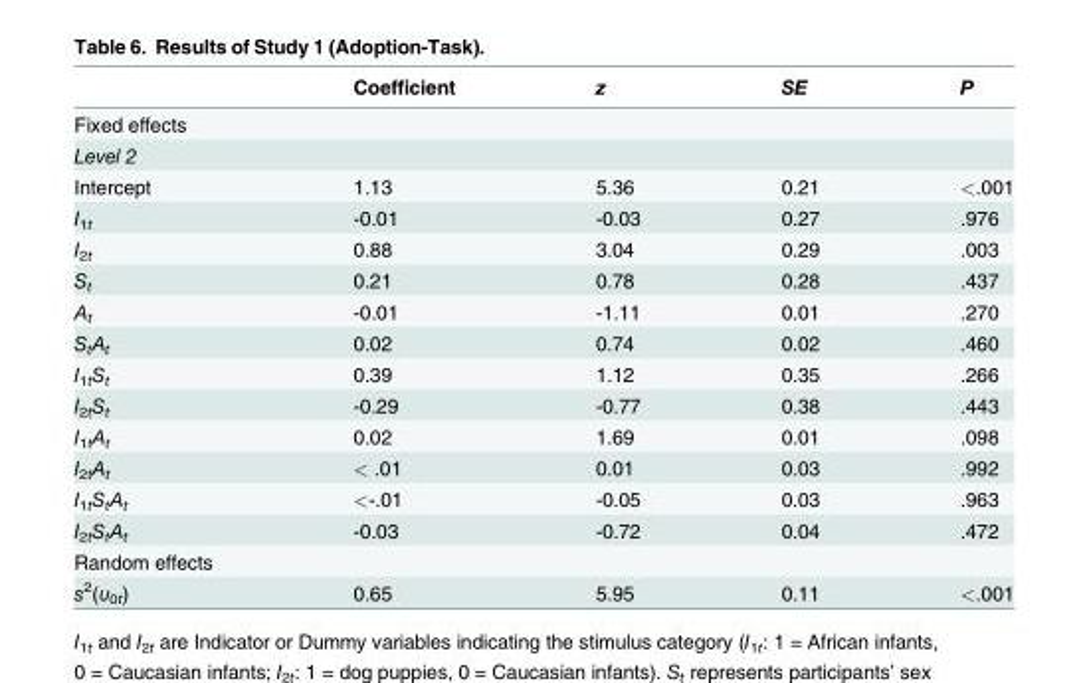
<table><thead><tr><td></td><td>Coefficient</td><td>z</td><td>SE</td><td>P</td></tr></thead><tbody><tr><td colspan="5">Fixed effects</td></tr><tr><td colspan="5">Level 2</td></tr><tr><td>Intercept</td><td>1.13</td><td>5.36</td><td>0.21</td><td>&lt;.001</td></tr><tr><td>I<sub>1t</sub></td><td>-0.01</td><td>-0.03</td><td>0.27</td><td>.976</td></tr><tr><td>I<sub>2t</sub></td><td>0.88</td><td>3.04</td><td>0.29</td><td>.003</td></tr><tr><td>S<sub>t</sub></td><td>0.21</td><td>0.78</td><td>0.28</td><td>.437</td></tr><tr><td>A<sub>t</sub></td><td>-0.01</td><td>-1.11</td><td>0.01</td><td>.270</td></tr><tr><td>S<sub>t</sub>A<sub>t</sub></td><td>0.02</td><td>0.74</td><td>0.02</td><td>.460</td></tr><tr><td>I<sub>1t</sub>S<sub>t</sub></td><td>0.39</td><td>1.12</td><td>0.35</td><td>.266</td></tr><tr><td>I<sub>2t</sub>S<sub>t</sub></td><td>-0.29</td><td>-0.77</td><td>0.38</td><td>.443</td></tr><tr><td>I<sub>1t</sub>A<sub>t</sub></td><td>0.02</td><td>1.69</td><td>0.01</td><td>.098</td></tr><tr><td>I<sub>2t</sub>A<sub>t</sub></td><td>&lt; .01</td><td>0.01</td><td>0.03</td><td>.992</td></tr><tr><td>I<sub>1t</sub>S<sub>t</sub>A<sub>t</sub></td><td>&lt;-.01</td><td>-0.05</td><td>0.03</td><td>.963</td></tr><tr><td>I<sub>2t</sub>S<sub>t</sub>A<sub>t</sub></td><td>-0.03</td><td>-0.72</td><td>0.04</td><td>.472</td></tr><tr><td colspan="5">Random effects</td></tr><tr><td>s<sup>2</sup>(υ<sub>0t</sub>)</td><td>0.65</td><td>5.95</td><td>0.11</td><td>&lt;.001</td></tr></tbody></table>